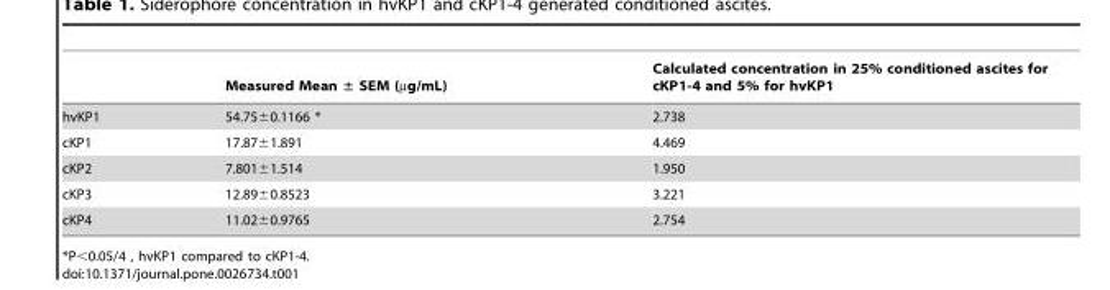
<table><thead><tr><td></td><td>Measured Mean ± SEM (µg/mL)</td><td>Calculated concentration in 25% conditioned ascites for cKP1-4 and 5% for hvKP1</td></tr></thead><tbody><tr><td>hvKP1</td><td>54.75±0.1166 *</td><td>2.738</td></tr><tr><td>cKP1</td><td>17.87±1.891</td><td>4.469</td></tr><tr><td>cKP2</td><td>7.801±1.514</td><td>1.950</td></tr><tr><td>cKP3</td><td>12.89±0.8523</td><td>3.221</td></tr><tr><td>cKP4</td><td>11.02±0.9765</td><td>2.754</td></tr></tbody></table>